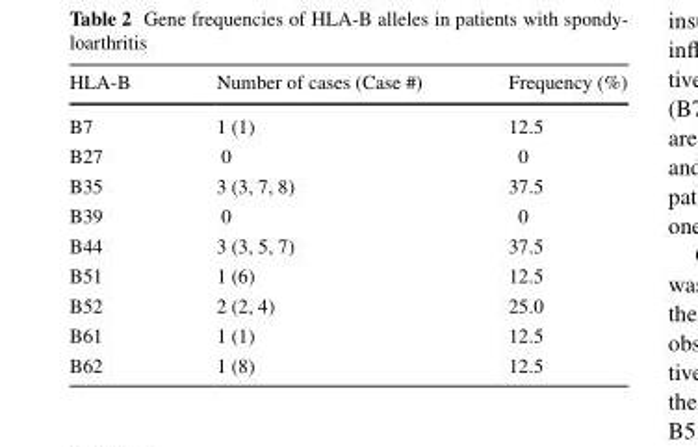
<table><thead><tr><td>HLA-B</td><td>Number of cases (Case #)</td><td>Frequency (%)</td></tr></thead><tbody><tr><td>B7</td><td>1 (1)</td><td>12.5</td></tr><tr><td>B27</td><td>0</td><td>0</td></tr><tr><td>B35</td><td>3 (3, 7, 8)</td><td>37.5</td></tr><tr><td>B39</td><td>0</td><td>0</td></tr><tr><td>B44</td><td>3 (3, 5, 7)</td><td>37.5</td></tr><tr><td>B51</td><td>1 (6)</td><td>12.5</td></tr><tr><td>B52</td><td>2 (2, 4)</td><td>25.0</td></tr><tr><td>B61</td><td>1 (1)</td><td>12.5</td></tr><tr><td>B62</td><td>1 (8)</td><td>12.5</td></tr></tbody></table>